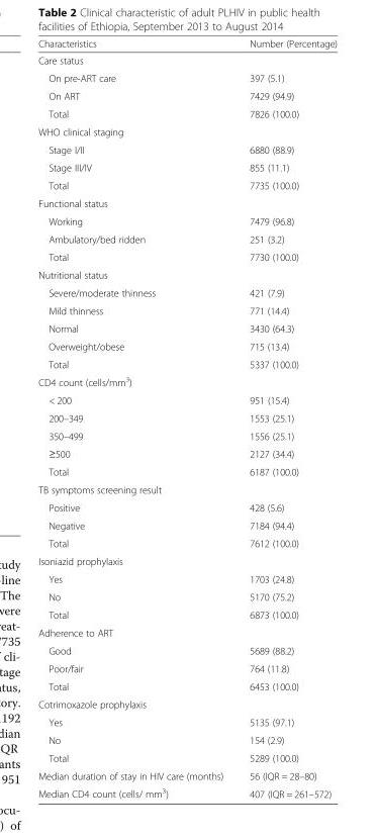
<table><thead><tr><td>Characteristics</td><td>Number (Percentage)</td></tr></thead><tbody><tr><td colspan="2">Care status</td></tr><tr><td>On pre-ART care</td><td>397 (5.1)</td></tr><tr><td>On ART</td><td>7429 (94.9)</td></tr><tr><td>Total</td><td>7826 (100.0)</td></tr><tr><td colspan="2">WHO clinical staging</td></tr><tr><td>Stage I/II</td><td>6880 (88.9)</td></tr><tr><td>Stage III/IV</td><td>855 (11.1)</td></tr><tr><td>Total</td><td>7735 (100.0)</td></tr><tr><td colspan="2">Functional status</td></tr><tr><td>Working</td><td>7479 (96.8)</td></tr><tr><td>Ambulatory/bed ridden</td><td>251 (3.2)</td></tr><tr><td>Total</td><td>7730 (100.0)</td></tr><tr><td colspan="2">Nutritional status</td></tr><tr><td>Severe/moderate thinness</td><td>421 (7.9)</td></tr><tr><td>Mild thinness</td><td>771 (14.4)</td></tr><tr><td>Normal</td><td>3430 (64.3)</td></tr><tr><td>Overweight/obese</td><td>715 (13.4)</td></tr><tr><td>Total</td><td>5337 (100.0)</td></tr><tr><td colspan="2">CD4 count (cells/mm<sup>3</sup>)</td></tr><tr><td>&lt; 200</td><td>951 (15.4)</td></tr><tr><td>200–349</td><td>1553 (25.1)</td></tr><tr><td>350–499</td><td>1556 (25.1)</td></tr><tr><td>≥500</td><td>2127 (34.4)</td></tr><tr><td>Total</td><td>6187 (100.0)</td></tr><tr><td colspan="2">TB symptoms screening result</td></tr><tr><td>Positive</td><td>428 (5.6)</td></tr><tr><td>Negative</td><td>7184 (94.4)</td></tr><tr><td>Total</td><td>7612 (100.0)</td></tr><tr><td colspan="2">Isoniazid prophylaxis</td></tr><tr><td>Yes</td><td>1703 (24.8)</td></tr><tr><td>No</td><td>5170 (75.2)</td></tr><tr><td>Total</td><td>6873 (100.0)</td></tr><tr><td colspan="2">Adherence to ART</td></tr><tr><td>Good</td><td>5689 (88.2)</td></tr><tr><td>Poor/fair</td><td>764 (11.8)</td></tr><tr><td>Total</td><td>6453 (100.0)</td></tr><tr><td colspan="2">Cotrimoxazole prophylaxis</td></tr><tr><td>Yes</td><td>5135 (97.1)</td></tr><tr><td>No</td><td>154 (2.9)</td></tr><tr><td>Total</td><td>5289 (100.0)</td></tr><tr><td>Median duration of stay in HIV care (months)</td><td>56 (IQR = 28–80)</td></tr><tr><td>Median CD4 count (cells/ mm<sup>3</sup>)</td><td>407 (IQR = 261–572)</td></tr></tbody></table>